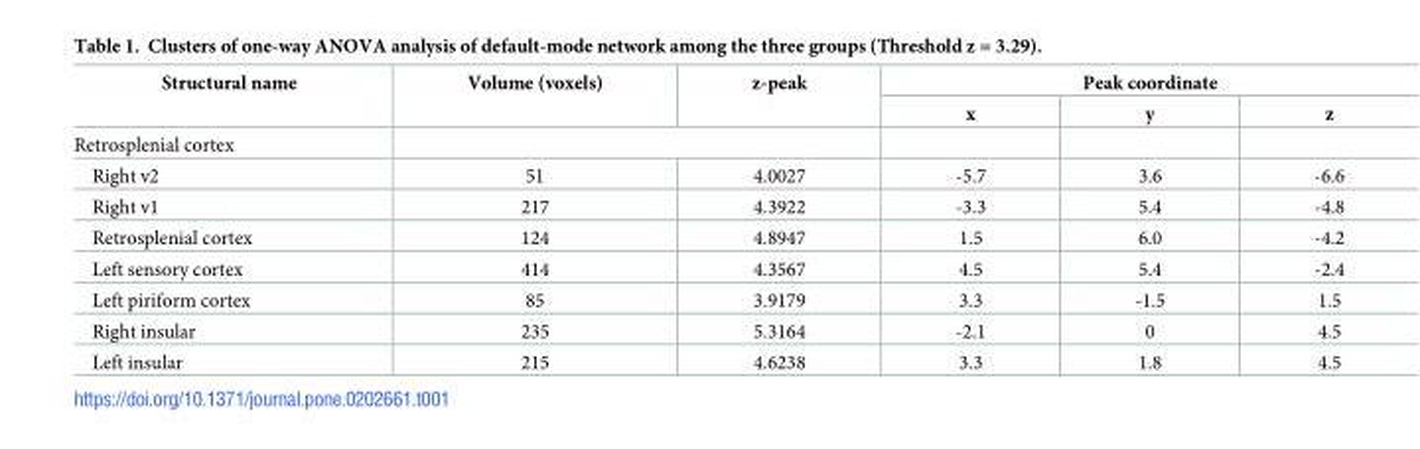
<table><thead><tr><td rowspan="2">Structural name</td><td rowspan="2">Volume (voxels)</td><td rowspan="2">z-peak</td><td colspan="3">Peak coordinate</td></tr><tr><td>x</td><td>y</td><td>z</td></tr></thead><tbody><tr><td colspan="6">Retrosplenial cortex</td></tr><tr><td>Right v2</td><td>51</td><td>4.0027</td><td>-5.7</td><td>3.6</td><td>-6.6</td></tr><tr><td>Right v1</td><td>217</td><td>4.3922</td><td>-3.3</td><td>5.4</td><td>-4.8</td></tr><tr><td>Retrosplenial cortex</td><td>124</td><td>4.8947</td><td>1.5</td><td>6.0</td><td>-4.2</td></tr><tr><td>Left sensory cortex</td><td>414</td><td>4.3567</td><td>4.5</td><td>5.4</td><td>-2.4</td></tr><tr><td>Left piriform cortex</td><td>85</td><td>3.9179</td><td>3.3</td><td>-1.5</td><td>1.5</td></tr><tr><td>Right insular</td><td>235</td><td>5.3164</td><td>-2.1</td><td>0</td><td>4.5</td></tr><tr><td>Left insular</td><td>215</td><td>4.6238</td><td>3.3</td><td>1.8</td><td>4.5</td></tr></tbody></table>